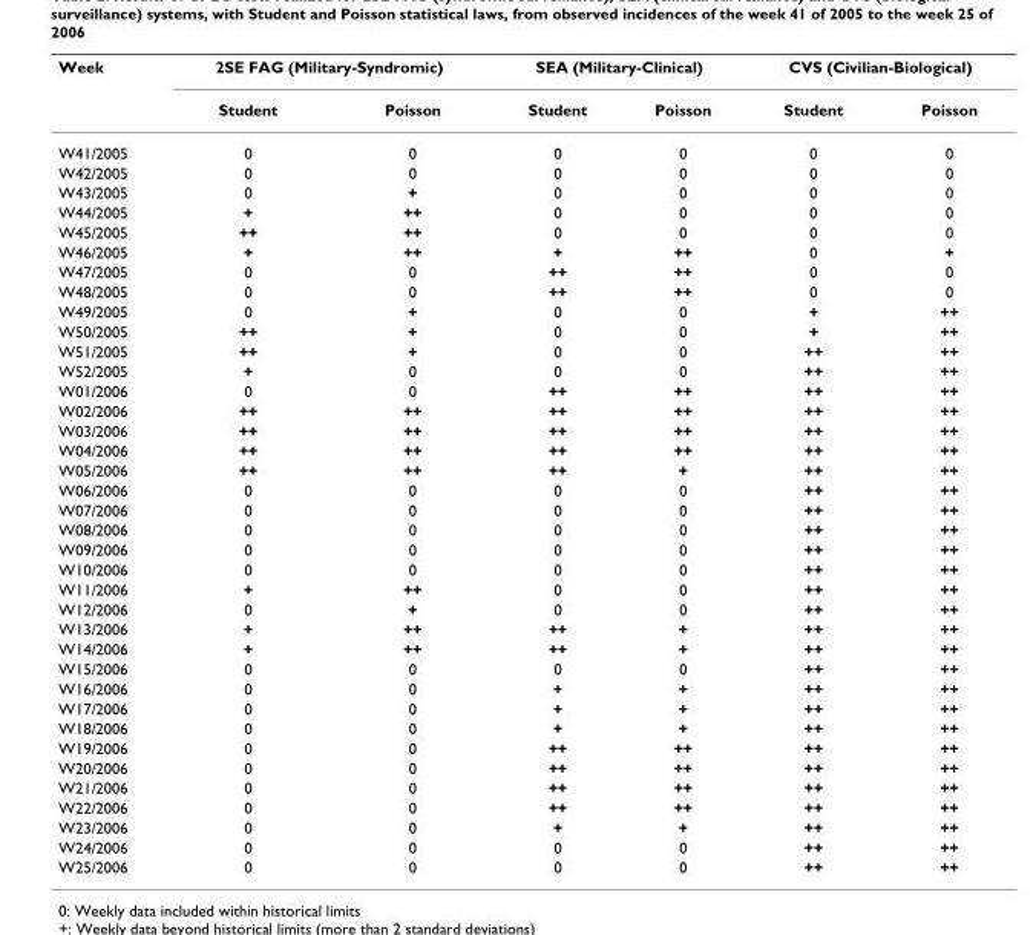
<table><thead><tr><td rowspan="2">Week</td><td colspan="2">2SE FAG (Military-Syndromic)</td><td colspan="2">SEA (Military-Clinical)</td><td colspan="2">CVS (Civilian-Biological)</td></tr><tr><td>Student</td><td>Poisson</td><td>Student</td><td>Poisson</td><td>Student</td><td>Poisson</td></tr></thead><tbody><tr><td>W41/2005</td><td>0</td><td>0</td><td>0</td><td>0</td><td>0</td><td>0</td></tr><tr><td>W42/2005</td><td>0</td><td>0</td><td>0</td><td>0</td><td>0</td><td>0</td></tr><tr><td>W43/2005</td><td>0</td><td>+</td><td>0</td><td>0</td><td>0</td><td>0</td></tr><tr><td>W44/2005</td><td>+</td><td>++</td><td>0</td><td>0</td><td>0</td><td>0</td></tr><tr><td>W45/2005</td><td>++</td><td>++</td><td>0</td><td>0</td><td>0</td><td>0</td></tr><tr><td>W46/2005</td><td>+</td><td>++</td><td>+</td><td>++</td><td>0</td><td>+</td></tr><tr><td>W47/2005</td><td>0</td><td>0</td><td>++</td><td>++</td><td>0</td><td>0</td></tr><tr><td>W48/2005</td><td>0</td><td>0</td><td>++</td><td>++</td><td>0</td><td>0</td></tr><tr><td>W49/2005</td><td>0</td><td>+</td><td>0</td><td>0</td><td>+</td><td>++</td></tr><tr><td>W50/2005</td><td>++</td><td>+</td><td>0</td><td>0</td><td>+</td><td>++</td></tr><tr><td>W51/2005</td><td>++</td><td>+</td><td>0</td><td>0</td><td>++</td><td>++</td></tr><tr><td>W52/2005</td><td>+</td><td>0</td><td>0</td><td>0</td><td>++</td><td>++</td></tr><tr><td>W01/2006</td><td>0</td><td>0</td><td>++</td><td>++</td><td>++</td><td>++</td></tr><tr><td>W02/2006</td><td>++</td><td>++</td><td>++</td><td>++</td><td>++</td><td>++</td></tr><tr><td>W03/2006</td><td>++</td><td>++</td><td>++</td><td>++</td><td>++</td><td>++</td></tr><tr><td>W04/2006</td><td>++</td><td>++</td><td>++</td><td>++</td><td>++</td><td>++</td></tr><tr><td>W05/2006</td><td>++</td><td>++</td><td>++</td><td>+</td><td>++</td><td>++</td></tr><tr><td>W06/2006</td><td>0</td><td>0</td><td>0</td><td>0</td><td>++</td><td>++</td></tr><tr><td>W07/2006</td><td>0</td><td>0</td><td>0</td><td>0</td><td>++</td><td>++</td></tr><tr><td>W08/2006</td><td>0</td><td>0</td><td>0</td><td>0</td><td>++</td><td>++</td></tr><tr><td>W09/2006</td><td>0</td><td>0</td><td>0</td><td>0</td><td>++</td><td>++</td></tr><tr><td>W10/2006</td><td>0</td><td>0</td><td>0</td><td>0</td><td>++</td><td>++</td></tr><tr><td>W11/2006</td><td>+</td><td>++</td><td>0</td><td>0</td><td>++</td><td>++</td></tr><tr><td>W12/2006</td><td>0</td><td>+</td><td>0</td><td>0</td><td>++</td><td>++</td></tr><tr><td>W13/2006</td><td>+</td><td>++</td><td>++</td><td>+</td><td>++</td><td>++</td></tr><tr><td>W14/2006</td><td>+</td><td>++</td><td>++</td><td>+</td><td>++</td><td>++</td></tr><tr><td>W15/2006</td><td>0</td><td>0</td><td>0</td><td>0</td><td>++</td><td>++</td></tr><tr><td>W16/2006</td><td>0</td><td>0</td><td>+</td><td>+</td><td>++</td><td>++</td></tr><tr><td>W17/2006</td><td>0</td><td>0</td><td>+</td><td>+</td><td>++</td><td>++</td></tr><tr><td>W18/2006</td><td>0</td><td>0</td><td>+</td><td>+</td><td>++</td><td>++</td></tr><tr><td>W19/2006</td><td>0</td><td>0</td><td>++</td><td>++</td><td>++</td><td>++</td></tr><tr><td>W20/2006</td><td>0</td><td>0</td><td>++</td><td>++</td><td>++</td><td>++</td></tr><tr><td>W21/2006</td><td>0</td><td>0</td><td>++</td><td>++</td><td>++</td><td>++</td></tr><tr><td>W22/2006</td><td>0</td><td>0</td><td>++</td><td>++</td><td>++</td><td>++</td></tr><tr><td>W23/2006</td><td>0</td><td>0</td><td>+</td><td>+</td><td>++</td><td>++</td></tr><tr><td>W24/2006</td><td>0</td><td>0</td><td>0</td><td>0</td><td>++</td><td>++</td></tr><tr><td>W25/2006</td><td>0</td><td>0</td><td>0</td><td>0</td><td>++</td><td>++</td></tr></tbody></table>